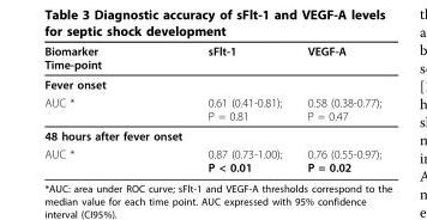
<table><thead><tr><td>Biomarker Time-point</td><td>sFlt-1</td><td>VEGF-A</td></tr></thead><tbody><tr><td colspan="3">Fever onset</td></tr><tr><td>AUC *</td><td>0.61 (0.41-0.81); P = 0.81</td><td>0.58 (0.38-0.77); P = 0.47</td></tr><tr><td colspan="3">48 hours after fever onset</td></tr><tr><td>AUC *</td><td>0.87 (0.73-1.00); P &lt; 0.01</td><td>0.76 (0.55-0.97); P = 0.02</td></tr></tbody></table>